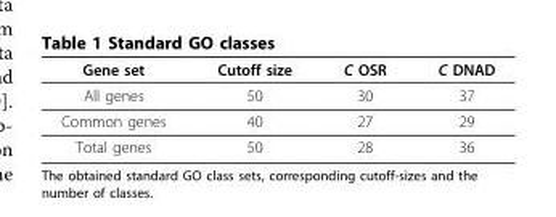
<table><thead><tr><td>Gene set</td><td>Cutoff size</td><td>C OSR</td><td>C DNAD</td></tr></thead><tbody><tr><td>All genes</td><td>50</td><td>30</td><td>37</td></tr><tr><td>Common genes</td><td>40</td><td>27</td><td>29</td></tr><tr><td>Total genes</td><td>50</td><td>28</td><td>36</td></tr></tbody></table>